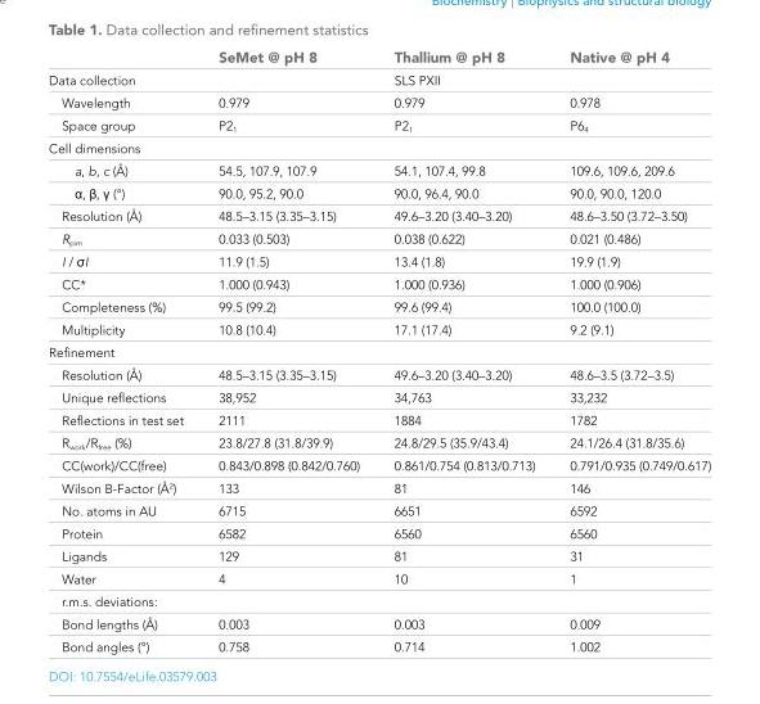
<table><thead><tr><td></td><td>SeMet @ pH 8</td><td>Thallium @ pH 8</td><td>Native @ pH 4</td></tr></thead><tbody><tr><td>Data collection</td><td></td><td>SLS PXII</td><td></td></tr><tr><td>Wavelength</td><td>0.979</td><td>0.979</td><td>0.978</td></tr><tr><td>Space group</td><td>P2<sub>1</sub></td><td>P2<sub>1</sub></td><td>P6<sub>4</sub></td></tr><tr><td colspan="4">Cell dimensions</td></tr><tr><td>a, b, c (Å)</td><td>54.5, 107.9, 107.9</td><td>54.1, 107.4, 99.8</td><td>109.6, 109.6, 209.6</td></tr><tr><td>α, β, γ (°)</td><td>90.0, 95.2, 90.0</td><td>90.0, 96.4, 90.0</td><td>90.0, 90.0, 120.0</td></tr><tr><td>Resolution (Å)</td><td>48.5–3.15 (3.35–3.15)</td><td>49.6–3.20 (3.40–3.20)</td><td>48.6–3.50 (3.72–3.50)</td></tr><tr><td>R<sub>pim</sub></td><td>0.033 (0.503)</td><td>0.038 (0.622)</td><td>0.021 (0.486)</td></tr><tr><td>I / σI</td><td>11.9 (1.5)</td><td>13.4 (1.8)</td><td>19.9 (1.9)</td></tr><tr><td>CC*</td><td>1.000 (0.943)</td><td>1.000 (0.936)</td><td>1.000 (0.906)</td></tr><tr><td>Completeness (%)</td><td>99.5 (99.2)</td><td>99.6 (99.4)</td><td>100.0 (100.0)</td></tr><tr><td>Multiplicity</td><td>10.8 (10.4)</td><td>17.1 (17.4)</td><td>9.2 (9.1)</td></tr><tr><td colspan="4">Refinement</td></tr><tr><td>Resolution (Å)</td><td>48.5–3.15 (3.35–3.15)</td><td>49.6–3.20 (3.40–3.20)</td><td>48.6–3.5 (3.72–3.5)</td></tr><tr><td>Unique reflections</td><td>38,952</td><td>34,763</td><td>33,232</td></tr><tr><td>Reflections in test set</td><td>2111</td><td>1884</td><td>1782</td></tr><tr><td>R<sub>work</sub>/R<sub>free</sub> (%)</td><td>23.8/27.8 (31.8/39.9)</td><td>24.8/29.5 (35.9/43.4)</td><td>24.1/26.4 (31.8/35.6)</td></tr><tr><td>CC(work)/CC(free)</td><td>0.843/0.898 (0.842/0.760)</td><td>0.861/0.754 (0.813/0.713)</td><td>0.791/0.935 (0.749/0.617)</td></tr><tr><td>Wilson B-Factor (Å<sup>2</sup>)</td><td>133</td><td>81</td><td>146</td></tr><tr><td>No. atoms in AU</td><td>6715</td><td>6651</td><td>6592</td></tr><tr><td>Protein</td><td>6582</td><td>6560</td><td>6560</td></tr><tr><td>Ligands</td><td>129</td><td>81</td><td>31</td></tr><tr><td>Water</td><td>4</td><td>10</td><td>1</td></tr><tr><td colspan="4">r.m.s. deviations:</td></tr><tr><td>Bond lengths (Å)</td><td>0.003</td><td>0.003</td><td>0.009</td></tr><tr><td>Bond angles (°)</td><td>0.758</td><td>0.714</td><td>1.002</td></tr></tbody></table>